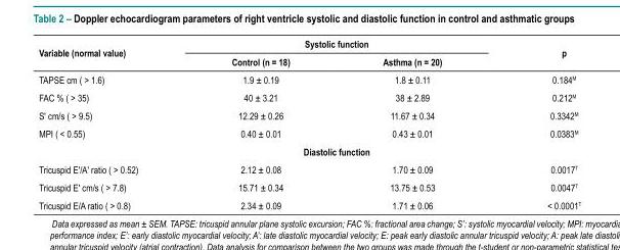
<table><thead><tr><td rowspan="2">Variable (normal value)</td><td colspan="2">Systolic function</td><td rowspan="2">p</td></tr><tr><td>Control (n = 18)</td><td>Asthma (n = 20)</td></tr></thead><tbody><tr><td>TAPSE cm ( &gt; 1.6)</td><td>1.9 ± 0.19</td><td>1.8 ± 0.11</td><td>0.184<sup>M</sup></td></tr><tr><td>FAC % ( &gt; 35)</td><td>40 ± 3.21</td><td>38 ± 2.89</td><td>0.212<sup>M</sup></td></tr><tr><td>S&#x27; cm/s ( &gt; 9.5)</td><td>12.29 ± 0.26</td><td>11.67 ± 0.34</td><td>0.3342<sup>M</sup></td></tr><tr><td>MPI ( &lt; 0.55)</td><td>0.40 ± 0.01</td><td>0.43 ± 0.01</td><td>0.0383<sup>M</sup></td></tr><tr><td colspan="4">Diastolic function</td></tr><tr><td>Tricuspid E&#x27;/A&#x27; ratio ( &gt; 0.52)</td><td>2.12 ± 0.08</td><td>1.70 ± 0.09</td><td>0.0017<sup>T</sup></td></tr><tr><td>Tricuspid E&#x27; cm/s ( &gt; 7.8)</td><td>15.71 ± 0.34</td><td>13.75 ± 0.53</td><td>0.0047<sup>T</sup></td></tr><tr><td>Tricuspid E/A ratio ( &gt; 0.8)</td><td>2.34 ± 0.09</td><td>1.71 ± 0.06</td><td>&lt; 0.0001<sup>T</sup></td></tr></tbody></table>